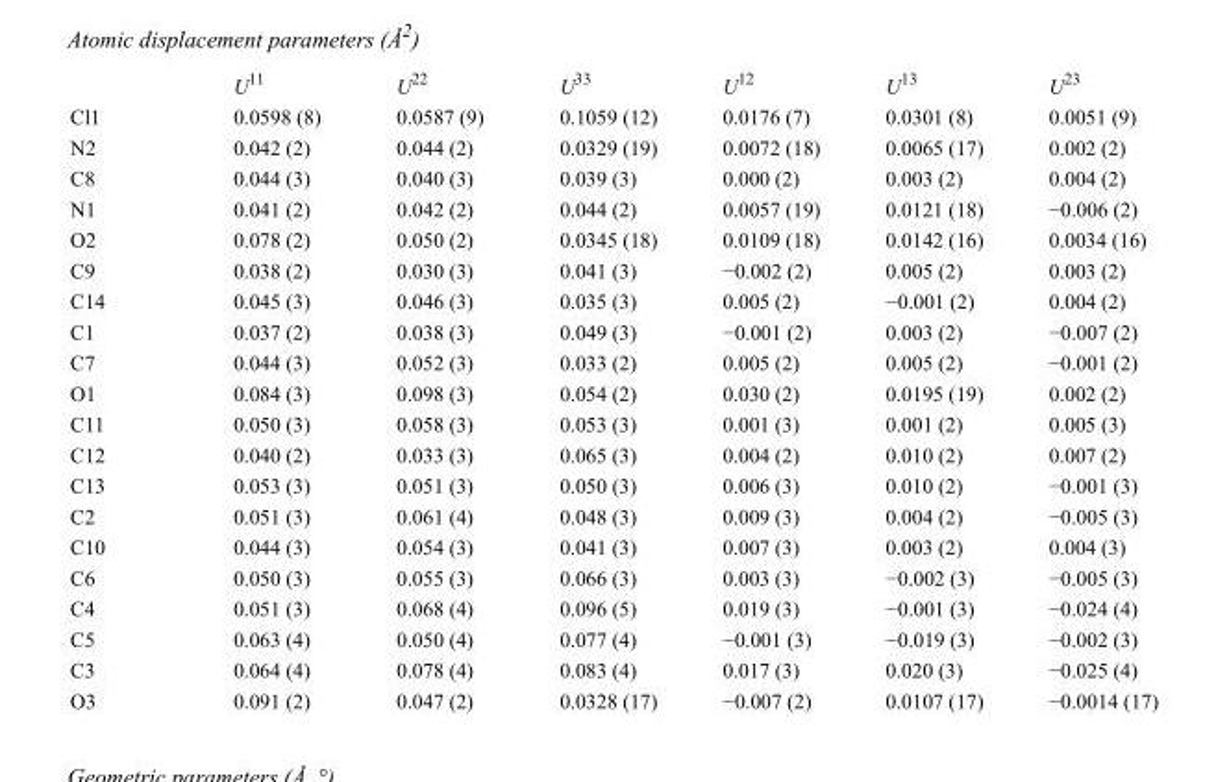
<table><thead><tr><td></td><td>U<sup>11</sup></td><td>U<sup>22</sup></td><td>U<sup>33</sup></td><td>U<sup>12</sup></td><td>U<sup>13</sup></td><td>U<sup>23</sup></td></tr></thead><tbody><tr><td>Cl1</td><td>0.0598 (8)</td><td>0.0587 (9)</td><td>0.1059 (12)</td><td>0.0176 (7)</td><td>0.0301 (8)</td><td>0.0051 (9)</td></tr><tr><td>N2</td><td>0.042 (2)</td><td>0.044 (2)</td><td>0.0329 (19)</td><td>0.0072 (18)</td><td>0.0065 (17)</td><td>0.002 (2)</td></tr><tr><td>C8</td><td>0.044 (3)</td><td>0.040 (3)</td><td>0.039 (3)</td><td>0.000 (2)</td><td>0.003 (2)</td><td>0.004 (2)</td></tr><tr><td>N1</td><td>0.041 (2)</td><td>0.042 (2)</td><td>0.044 (2)</td><td>0.0057 (19)</td><td>0.0121 (18)</td><td>−0.006 (2)</td></tr><tr><td>O2</td><td>0.078 (2)</td><td>0.050 (2)</td><td>0.0345 (18)</td><td>0.0109 (18)</td><td>0.0142 (16)</td><td>0.0034 (16)</td></tr><tr><td>C9</td><td>0.038 (2)</td><td>0.030 (3)</td><td>0.041 (3)</td><td>−0.002 (2)</td><td>0.005 (2)</td><td>0.003 (2)</td></tr><tr><td>C14</td><td>0.045 (3)</td><td>0.046 (3)</td><td>0.035 (3)</td><td>0.005 (2)</td><td>−0.001 (2)</td><td>0.004 (2)</td></tr><tr><td>C1</td><td>0.037 (2)</td><td>0.038 (3)</td><td>0.049 (3)</td><td>−0.001 (2)</td><td>0.003 (2)</td><td>−0.007 (2)</td></tr><tr><td>C7</td><td>0.044 (3)</td><td>0.052 (3)</td><td>0.033 (2)</td><td>0.005 (2)</td><td>0.005 (2)</td><td>−0.001 (2)</td></tr><tr><td>O1</td><td>0.084 (3)</td><td>0.098 (3)</td><td>0.054 (2)</td><td>0.030 (2)</td><td>0.0195 (19)</td><td>0.002 (2)</td></tr><tr><td>C11</td><td>0.050 (3)</td><td>0.058 (3)</td><td>0.053 (3)</td><td>0.001 (3)</td><td>0.001 (2)</td><td>0.005 (3)</td></tr><tr><td>C12</td><td>0.040 (2)</td><td>0.033 (3)</td><td>0.065 (3)</td><td>0.004 (2)</td><td>0.010 (2)</td><td>0.007 (2)</td></tr><tr><td>C13</td><td>0.053 (3)</td><td>0.051 (3)</td><td>0.050 (3)</td><td>0.006 (3)</td><td>0.010 (2)</td><td>−0.001 (3)</td></tr><tr><td>C2</td><td>0.051 (3)</td><td>0.061 (4)</td><td>0.048 (3)</td><td>0.009 (3)</td><td>0.004 (2)</td><td>−0.005 (3)</td></tr><tr><td>C10</td><td>0.044 (3)</td><td>0.054 (3)</td><td>0.041 (3)</td><td>0.007 (3)</td><td>0.003 (2)</td><td>0.004 (3)</td></tr><tr><td>C6</td><td>0.050 (3)</td><td>0.055 (3)</td><td>0.066 (3)</td><td>0.003 (3)</td><td>−0.002 (3)</td><td>−0.005 (3)</td></tr><tr><td>C4</td><td>0.051 (3)</td><td>0.068 (4)</td><td>0.096 (5)</td><td>0.019 (3)</td><td>−0.001 (3)</td><td>−0.024 (4)</td></tr><tr><td>C5</td><td>0.063 (4)</td><td>0.050 (4)</td><td>0.077 (4)</td><td>−0.001 (3)</td><td>−0.019 (3)</td><td>−0.002 (3)</td></tr><tr><td>C3</td><td>0.064 (4)</td><td>0.078 (4)</td><td>0.083 (4)</td><td>0.017 (3)</td><td>0.020 (3)</td><td>−0.025 (4)</td></tr><tr><td>O3</td><td>0.091 (2)</td><td>0.047 (2)</td><td>0.0328 (17)</td><td>−0.007 (2)</td><td>0.0107 (17)</td><td>−0.0014 (17)</td></tr></tbody></table>